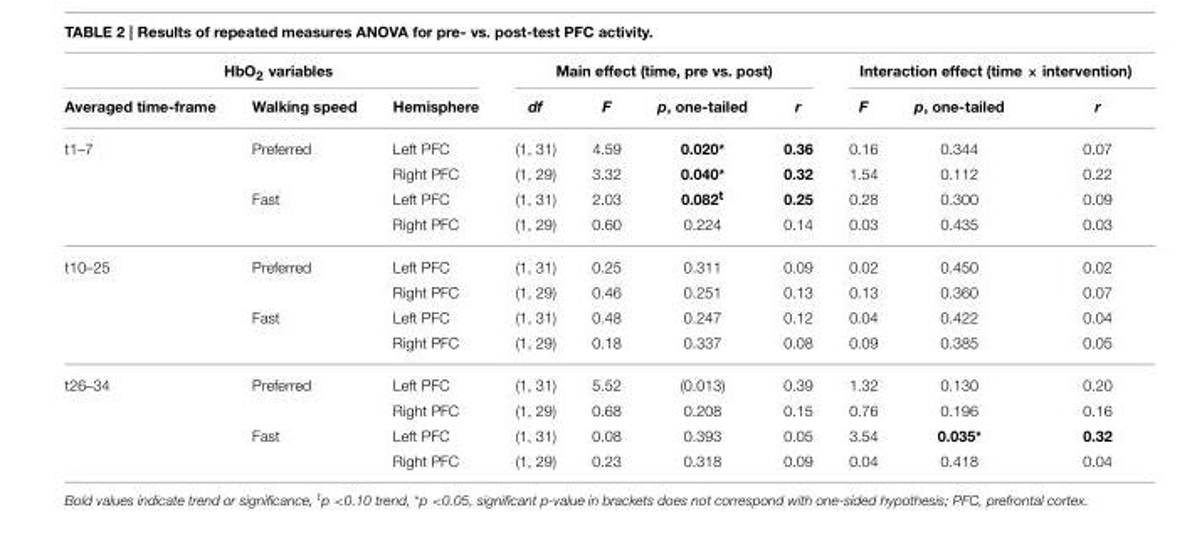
<table><thead><tr><td colspan="3">HbO<sub>2</sub> variables</td><td colspan="4">Main effect (time, pre vs. post)</td><td colspan="3">Interaction effect (time × intervention)</td></tr><tr><td>Averaged time-frame</td><td>Walking speed</td><td>Hemisphere</td><td>df</td><td>F</td><td>p, one-tailed</td><td>r</td><td>F</td><td>p, one-tailed</td><td>r</td></tr></thead><tbody><tr><td rowspan="4">t1–7</td><td>Preferred</td><td>Left PFC</td><td>(1, 31)</td><td>4.59</td><td>0.020*</td><td>0.36</td><td>0.16</td><td>0.344</td><td>0.07</td></tr><tr><td></td><td>Right PFC</td><td>(1, 29)</td><td>3.32</td><td>0.040*</td><td>0.32</td><td>1.54</td><td>0.112</td><td>0.22</td></tr><tr><td>Fast</td><td>Left PFC</td><td>(1, 31)</td><td>2.03</td><td>0.082<sup>t</sup></td><td>0.25</td><td>0.28</td><td>0.300</td><td>0.09</td></tr><tr><td></td><td>Right PFC</td><td>(1, 29)</td><td>0.60</td><td>0.224</td><td>0.14</td><td>0.03</td><td>0.435</td><td>0.03</td></tr><tr><td rowspan="4">t10–25</td><td>Preferred</td><td>Left PFC</td><td>(1, 31)</td><td>0.25</td><td>0.311</td><td>0.09</td><td>0.02</td><td>0.450</td><td>0.02</td></tr><tr><td></td><td>Right PFC</td><td>(1, 29)</td><td>0.46</td><td>0.251</td><td>0.13</td><td>0.13</td><td>0.360</td><td>0.07</td></tr><tr><td>Fast</td><td>Left PFC</td><td>(1, 31)</td><td>0.48</td><td>0.247</td><td>0.12</td><td>0.04</td><td>0.422</td><td>0.04</td></tr><tr><td></td><td>Right PFC</td><td>(1, 29)</td><td>0.18</td><td>0.337</td><td>0.08</td><td>0.09</td><td>0.385</td><td>0.05</td></tr><tr><td rowspan="4">t26–34</td><td>Preferred</td><td>Left PFC</td><td>(1, 31)</td><td>5.52</td><td>(0.013)</td><td>0.39</td><td>1.32</td><td>0.130</td><td>0.20</td></tr><tr><td></td><td>Right PFC</td><td>(1, 29)</td><td>0.68</td><td>0.208</td><td>0.15</td><td>0.76</td><td>0.196</td><td>0.16</td></tr><tr><td>Fast</td><td>Left PFC</td><td>(1, 31)</td><td>0.08</td><td>0.393</td><td>0.05</td><td>3.54</td><td>0.035*</td><td>0.32</td></tr><tr><td></td><td>Right PFC</td><td>(1, 29)</td><td>0.23</td><td>0.318</td><td>0.09</td><td>0.04</td><td>0.418</td><td>0.04</td></tr></tbody></table>